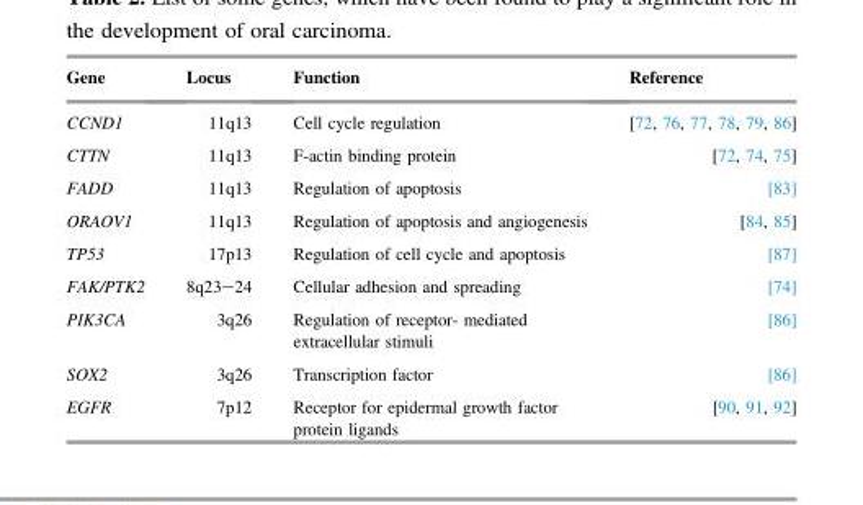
<table><thead><tr><td>Gene</td><td>Locus</td><td>Function</td><td>Reference</td></tr></thead><tbody><tr><td>CCND1</td><td>11q13</td><td>Cell cycle regulation</td><td>[72, 76, 77, 78, 79, 86]</td></tr><tr><td>CTTN</td><td>11q13</td><td>F-actin binding protein</td><td>[72, 74, 75]</td></tr><tr><td>FADD</td><td>11q13</td><td>Regulation of apoptosis</td><td>[83]</td></tr><tr><td>ORAOV1</td><td>11q13</td><td>Regulation of apoptosis and angiogenesis</td><td>[84, 85]</td></tr><tr><td>TP53</td><td>17p13</td><td>Regulation of cell cycle and apoptosis</td><td>[87]</td></tr><tr><td>FAK/PTK2</td><td>8q23–24</td><td>Cellular adhesion and spreading</td><td>[74]</td></tr><tr><td>PIK3CA</td><td>3q26</td><td>Regulation of receptor- mediated extracellular stimuli</td><td>[86]</td></tr><tr><td>SOX2</td><td>3q26</td><td>Transcription factor</td><td>[86]</td></tr><tr><td>EGFR</td><td>7p12</td><td>Receptor for epidermal growth factor protein ligands</td><td>[90, 91, 92]</td></tr></tbody></table>